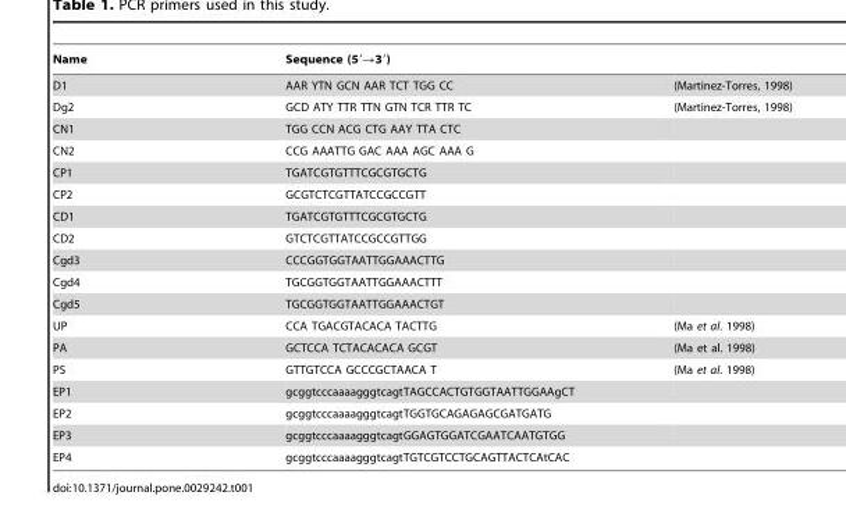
<table><thead><tr><td>Name</td><td>Sequence (5′→3′)</td><td></td></tr></thead><tbody><tr><td>D1</td><td>AAR YTN GCN AAR TCT TGG CC</td><td>(Martinez-Torres, 1998)</td></tr><tr><td>Dg2</td><td>GCD ATY TTR TTN GTN TCR TTR TC</td><td>(Martinez-Torres, 1998)</td></tr><tr><td>CN1</td><td>TGG CCN ACG CTG AAY TTA CTC</td><td></td></tr><tr><td>CN2</td><td>CCG AAATTG GAC AAA AGC AAA G</td><td></td></tr><tr><td>CP1</td><td>TGATCGTGTTTCGCGTGCTG</td><td></td></tr><tr><td>CP2</td><td>GCGTCTCGTTATCCGCCGTT</td><td></td></tr><tr><td>CD1</td><td>TGATCGTGTTTCGCGTGCTG</td><td></td></tr><tr><td>CD2</td><td>GTCTCGTTATCCGCCGTTGG</td><td></td></tr><tr><td>Cgd3</td><td>CCCGGTGGTAATTGGAAACTTG</td><td></td></tr><tr><td>Cgd4</td><td>TGCGGTGGTAATTGGAAACTTT</td><td></td></tr><tr><td>Cgd5</td><td>TGCGGTGGTAATTGGAAACTGT</td><td></td></tr><tr><td>UP</td><td>CCA TGACGTACACA TACTTG</td><td>(Ma et al. 1998)</td></tr><tr><td>PA</td><td>GCTCCA TCTACACACA GCGT</td><td>(Ma et al. 1998)</td></tr><tr><td>PS</td><td>GTTGTCCA GCCCGCTAACA T</td><td>(Ma et al. 1998)</td></tr><tr><td>EP1</td><td>gcggtcccaaaagggtcagtTAGCCACTGTGGTAATTGGAAgCT</td><td></td></tr><tr><td>EP2</td><td>gcggtcccaaaagggtcagtTGGTGCAGAGAGCGATGATG</td><td></td></tr><tr><td>EP3</td><td>gcggtcccaaaagggtcagtGGAGTGGATCGAATCAATGTGG</td><td></td></tr><tr><td>EP4</td><td>gcggtcccaaaagggtcagtTGTCGTCCTGCAGTTACTCAtCAC</td><td></td></tr></tbody></table>